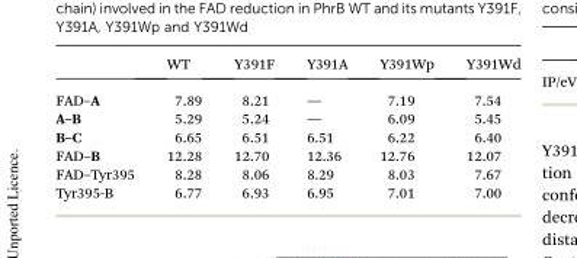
<table><thead><tr><td></td><td>WT</td><td>Y391F</td><td>Y391A</td><td>Y391Wp</td><td>Y391Wd</td></tr></thead><tbody><tr><td>FAD–A</td><td>7.89</td><td>8.21</td><td>—</td><td>7.19</td><td>7.54</td></tr><tr><td>A–B</td><td>5.29</td><td>5.24</td><td>—</td><td>6.09</td><td>5.45</td></tr><tr><td>B–C</td><td>6.65</td><td>6.51</td><td>6.51</td><td>6.22</td><td>6.40</td></tr><tr><td>FAD–B</td><td>12.28</td><td>12.70</td><td>12.36</td><td>12.76</td><td>12.07</td></tr><tr><td>FAD–Tyr395</td><td>8.28</td><td>8.06</td><td>8.29</td><td>8.03</td><td>7.67</td></tr><tr><td>Tyr395-B</td><td>6.77</td><td>6.93</td><td>6.95</td><td>7.01</td><td>7.00</td></tr></tbody></table>